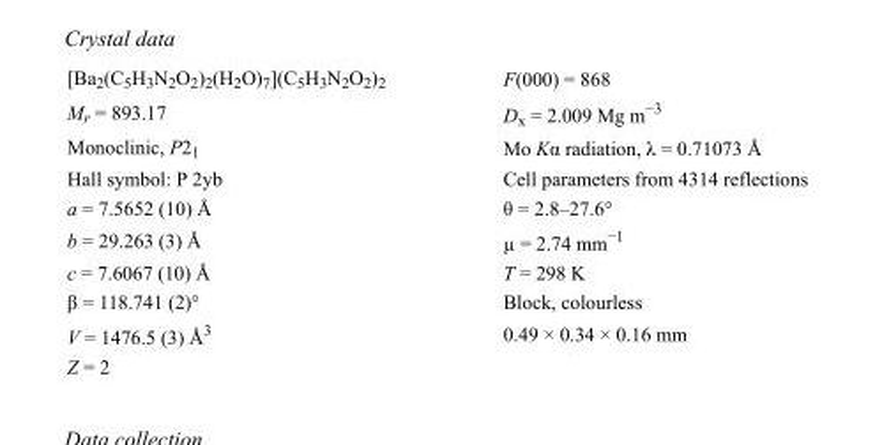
<table><tbody><tr><td>[Ba<sub>2</sub>(C<sub>5</sub>H<sub>3</sub>N<sub>2</sub>O<sub>2</sub>)<sub>2</sub>(H<sub>2</sub>O)<sub>7</sub>](C<sub>5</sub>H<sub>3</sub>N<sub>2</sub>O<sub>2</sub>)<sub>2</sub></td><td>F(000) = 868</td></tr><tr><td>M<sub>r</sub> = 893.17</td><td>D<sub>x</sub> = 2.009 Mg m<sup>−3</sup></td></tr><tr><td>Monoclinic, P2<sub>1</sub></td><td>Mo Kα radiation, λ = 0.71073 Å</td></tr><tr><td>Hall symbol: P 2yb</td><td>Cell parameters from 4314 reflections</td></tr><tr><td>a = 7.5652 (10) Å</td><td>θ = 2.8–27.6°</td></tr><tr><td>b = 29.263 (3) Å</td><td>µ = 2.74 mm<sup>−1</sup></td></tr><tr><td>c = 7.6067 (10) Å</td><td>T = 298 K</td></tr><tr><td>β = 118.741 (2)°</td><td>Block, colourless</td></tr><tr><td>V = 1476.5 (3) Å<sup>3</sup></td><td>0.49 × 0.34 × 0.16 mm</td></tr><tr><td>Z = 2</td><td></td></tr></tbody></table>